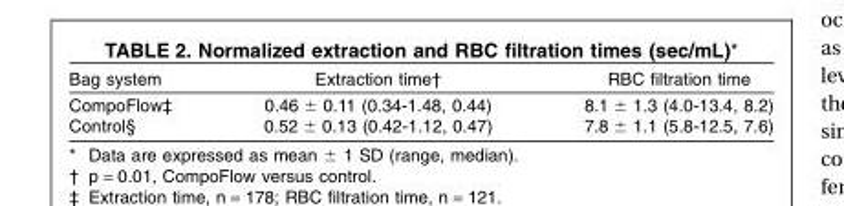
<table><thead><tr><td>Bag system</td><td>Extraction time†</td><td>RBC filtration time</td></tr></thead><tbody><tr><td>CompoFlow‡</td><td>0.46 ± 0.11 (0.34-1.48, 0.44)</td><td>8.1 ± 1.3 (4.0-13.4, 8.2)</td></tr><tr><td>Control§</td><td>0.52 ± 0.13 (0.42-1.12, 0.47)</td><td>7.8 ± 1.1 (5.8-12.5, 7.6)</td></tr></tbody></table>